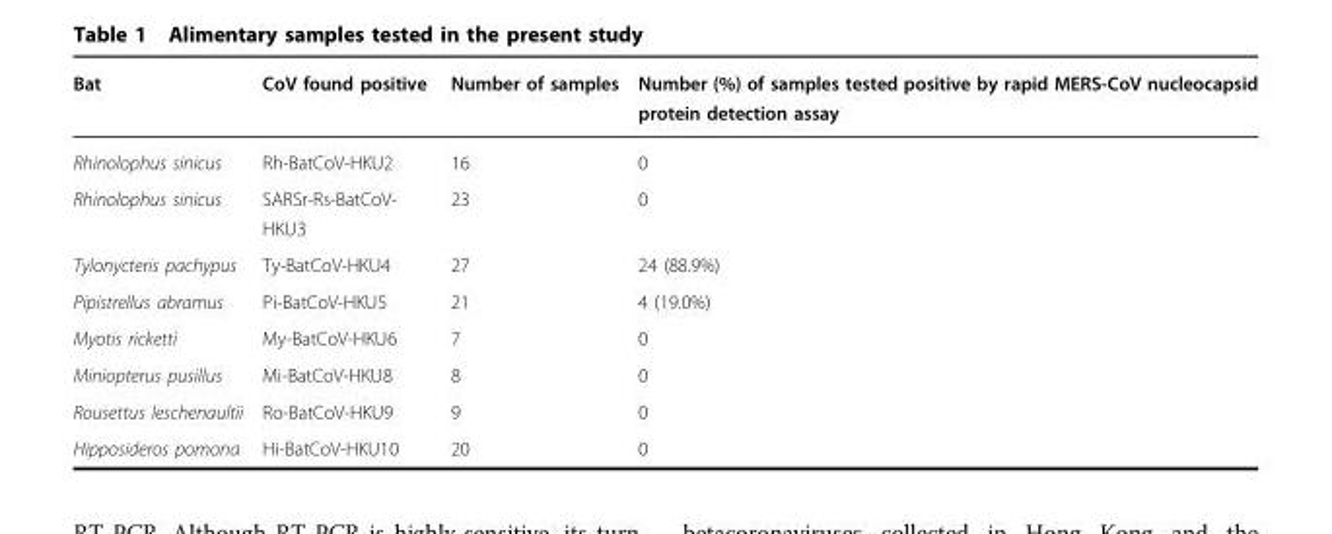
<table><thead><tr><td>Bat</td><td>CoV found positive</td><td>Number of samples</td><td>Number (%) of samples tested positive by rapid MERS-CoV nucleocapsid protein detection assay</td></tr></thead><tbody><tr><td>Rhinolophus sinicus</td><td>Rh-BatCoV-HKU2</td><td>16</td><td>0</td></tr><tr><td>Rhinolophus sinicus</td><td>SARSr-Rs-BatCoV- HKU3</td><td>23</td><td>0</td></tr><tr><td>Tylonycteris pachypus</td><td>Ty-BatCoV-HKU4</td><td>27</td><td>24 (88.9%)</td></tr><tr><td>Pipistrellus abramus</td><td>Pi-BatCoV-HKU5</td><td>21</td><td>4 (19.0%)</td></tr><tr><td>Myotis ricketti</td><td>My-BatCoV-HKU6</td><td>7</td><td>0</td></tr><tr><td>Miniopterus pusillus</td><td>Mi-BatCoV-HKU8</td><td>8</td><td>0</td></tr><tr><td>Rousettus leschenaultii</td><td>Ro-BatCoV-HKU9</td><td>9</td><td>0</td></tr><tr><td>Hipposideros pomona</td><td>Hi-BatCoV-HKU10</td><td>20</td><td>0</td></tr></tbody></table>